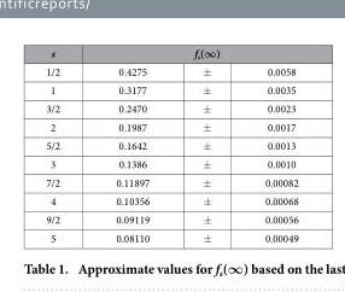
<table><thead><tr><td rowspan="2">s 1/2</td><td colspan="3">f<sub>s</sub>(∞)</td></tr><tr><td>0.4275</td><td>±</td><td>0.0058</td></tr></thead><tbody><tr><td>1</td><td>0.3177</td><td>±</td><td>0.0035</td></tr><tr><td>3/2</td><td>0.2470</td><td>±</td><td>0.0023</td></tr><tr><td>2</td><td>0.1987</td><td>±</td><td>0.0017</td></tr><tr><td>5/2</td><td>0.1642</td><td>±</td><td>0.0013</td></tr><tr><td>3</td><td>0.1386</td><td>±</td><td>0.0010</td></tr><tr><td>7/2</td><td>0.11897</td><td>±</td><td>0.00082</td></tr><tr><td>4</td><td>0.10356</td><td>±</td><td>0.00068</td></tr><tr><td>9/2</td><td>0.09119</td><td>±</td><td>0.00056</td></tr><tr><td>5</td><td>0.08110</td><td>±</td><td>0.00049</td></tr></tbody></table>